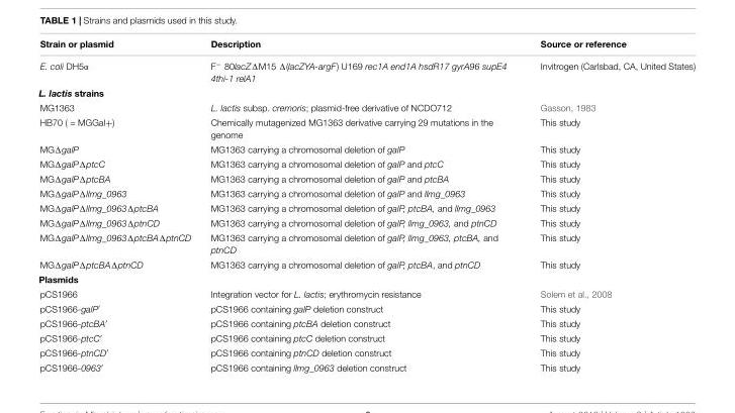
<table><thead><tr><td>Strain or plasmid</td><td>Description</td><td>Source or reference</td></tr></thead><tbody><tr><td>E. coli DH5α</td><td>F<sup>−</sup> 80lacZΔM15 Δ(lacZYA-argF) U169 rec1A end1A hsdR17 gyrA96 supE4 4thi-1 relA1</td><td>Invitrogen (Carlsbad, CA, United States)</td></tr><tr><td colspan="3">L. lactis strains</td></tr><tr><td>MG1363</td><td>L. lactis subsp. cremoris; plasmid-free derivative of NCDO712</td><td>Gasson, 1983</td></tr><tr><td>HB70 ( = MGGal+)</td><td>Chemically mutagenized MG1363 derivative carrying 29 mutations in the genome</td><td>This study</td></tr><tr><td>MGΔgalP</td><td>MG1363 carrying a chromosomal deletion of galP</td><td>This study</td></tr><tr><td>MGΔgalPΔptcC</td><td>MG1363 carrying a chromosomal deletion of galP and ptcC</td><td>This study</td></tr><tr><td>MGΔgalPΔptcBA</td><td>MG1363 carrying a chromosomal deletion of galP and ptcBA</td><td>This study</td></tr><tr><td>MGΔgalPΔllmg_0963</td><td>MG1363 carrying a chromosomal deletion of galP and llmg_0963</td><td>This study</td></tr><tr><td>MGΔgalPΔllmg_0963ΔptcBA</td><td>MG1363 carrying a chromosomal deletion of galP, ptcBA, and llmg_0963</td><td>This study</td></tr><tr><td>MGΔgalPΔllmg_0963ΔptnCD</td><td>MG1363 carrying a chromosomal deletion of galP, llmg_0963, and ptnCD</td><td>This study</td></tr><tr><td>MGΔgalPΔllmg_0963ΔptcBAΔptnCD</td><td>MG1363 carrying a chromosomal deletion of galP, llmg_0963, ptcBA, and ptnCD</td><td>This study</td></tr><tr><td>MGΔgalPΔptcBAΔptnCD</td><td>MG1363 carrying a chromosomal deletion of galP, ptcBA, and ptnCD</td><td>This study</td></tr><tr><td colspan="3">Plasmids</td></tr><tr><td>pCS1966</td><td>Integration vector for L. lactis; erythromycin resistance</td><td>Solem et al., 2008</td></tr><tr><td>pCS1966-galP′</td><td>pCS1966 containing galP deletion construct</td><td>This study</td></tr><tr><td>pCS1966-ptcBA′</td><td>pCS1966 containing ptcBA deletion construct</td><td>This study</td></tr><tr><td>pCS1966-ptcC′</td><td>pCS1966 containing ptcC deletion construct</td><td>This study</td></tr><tr><td>pCS1966-ptnCD′</td><td>pCS1966 containing ptnCD deletion construct</td><td>This study</td></tr><tr><td>pCS1966-0963′</td><td>pCS1966 containing llmg_0963 deletion construct</td><td>This study</td></tr></tbody></table>